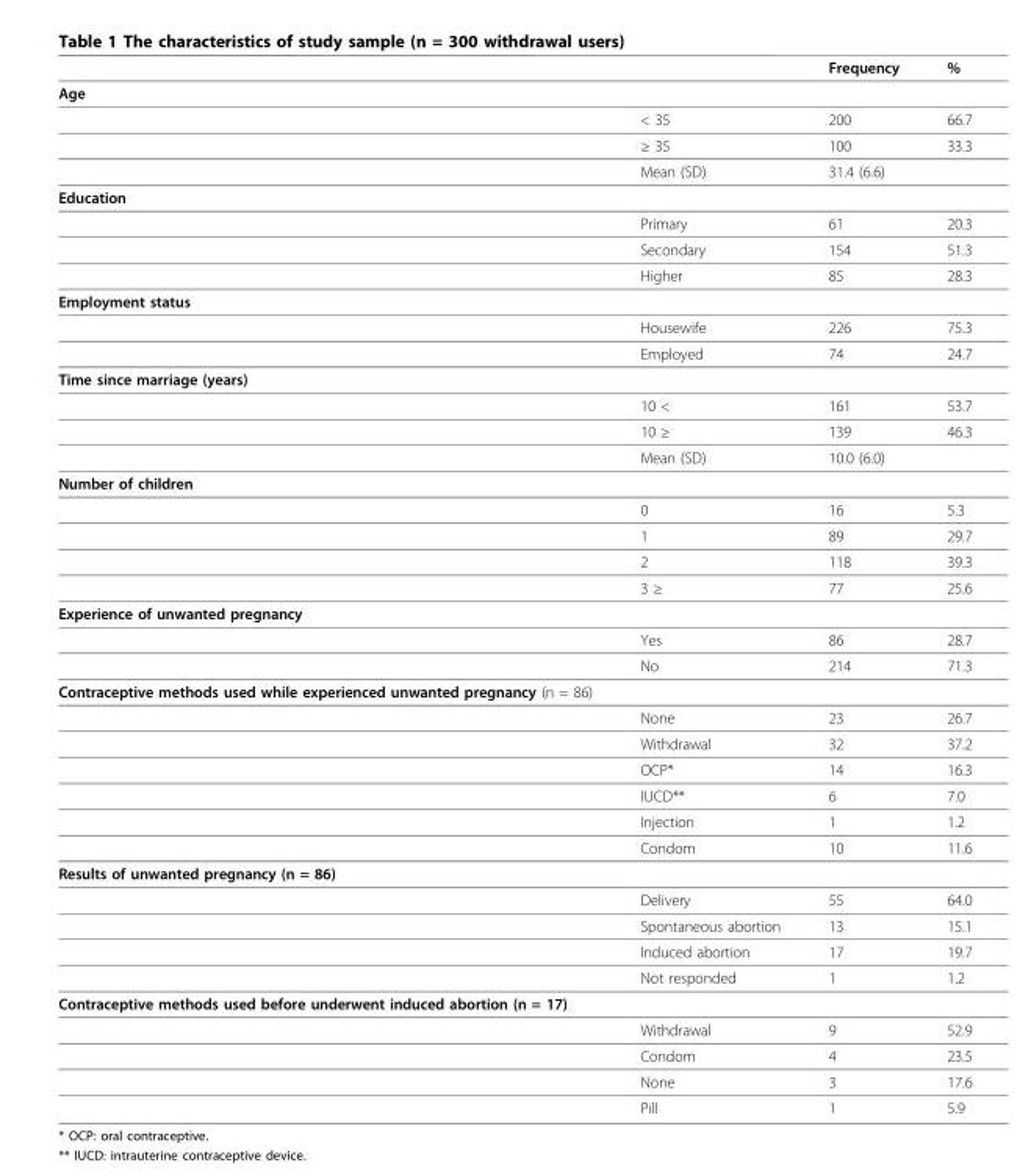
<table><thead><tr><td></td><td></td><td>Frequency</td><td>%</td></tr></thead><tbody><tr><td colspan="4">Age</td></tr><tr><td></td><td>&lt; 35</td><td>200</td><td>66.7</td></tr><tr><td></td><td>≥ 35</td><td>100</td><td>33.3</td></tr><tr><td></td><td>Mean (SD)</td><td>31.4 (6.6)</td><td></td></tr><tr><td colspan="4">Education</td></tr><tr><td></td><td>Primary</td><td>61</td><td>20.3</td></tr><tr><td></td><td>Secondary</td><td>154</td><td>51.3</td></tr><tr><td></td><td>Higher</td><td>85</td><td>28.3</td></tr><tr><td colspan="4">Employment status</td></tr><tr><td></td><td>Housewife</td><td>226</td><td>75.3</td></tr><tr><td></td><td>Employed</td><td>74</td><td>24.7</td></tr><tr><td colspan="4">Time since marriage (years)</td></tr><tr><td></td><td>10 &lt;</td><td>161</td><td>53.7</td></tr><tr><td></td><td>10 ≥</td><td>139</td><td>46.3</td></tr><tr><td></td><td>Mean (SD)</td><td>10.0 (6.0)</td><td></td></tr><tr><td colspan="4">Number of children</td></tr><tr><td></td><td>0</td><td>16</td><td>5.3</td></tr><tr><td></td><td>1</td><td>89</td><td>29.7</td></tr><tr><td></td><td>2</td><td>118</td><td>39.3</td></tr><tr><td></td><td>3 ≥</td><td>77</td><td>25.6</td></tr><tr><td colspan="4">Experience of unwanted pregnancy</td></tr><tr><td></td><td>Yes</td><td>86</td><td>28.7</td></tr><tr><td></td><td>No</td><td>214</td><td>71.3</td></tr><tr><td colspan="4">Contraceptive methods used while experienced unwanted pregnancy (n = 86)</td></tr><tr><td></td><td>None</td><td>23</td><td>26.7</td></tr><tr><td></td><td>Withdrawal</td><td>32</td><td>37.2</td></tr><tr><td></td><td>OCP*</td><td>14</td><td>16.3</td></tr><tr><td></td><td>IUCD**</td><td>6</td><td>7.0</td></tr><tr><td></td><td>Injection</td><td>1</td><td>1.2</td></tr><tr><td></td><td>Condom</td><td>10</td><td>11.6</td></tr><tr><td colspan="4">Results of unwanted pregnancy (n = 86)</td></tr><tr><td></td><td>Delivery</td><td>55</td><td>64.0</td></tr><tr><td></td><td>Spontaneous abortion</td><td>13</td><td>15.1</td></tr><tr><td></td><td>Induced abortion</td><td>17</td><td>19.7</td></tr><tr><td></td><td>Not responded</td><td>1</td><td>1.2</td></tr><tr><td colspan="4">Contraceptive methods used before underwent induced abortion (n = 17)</td></tr><tr><td></td><td>Withdrawal</td><td>9</td><td>52.9</td></tr><tr><td></td><td>Condom</td><td>4</td><td>23.5</td></tr><tr><td></td><td>None</td><td>3</td><td>17.6</td></tr><tr><td></td><td>Pill</td><td>1</td><td>5.9</td></tr></tbody></table>